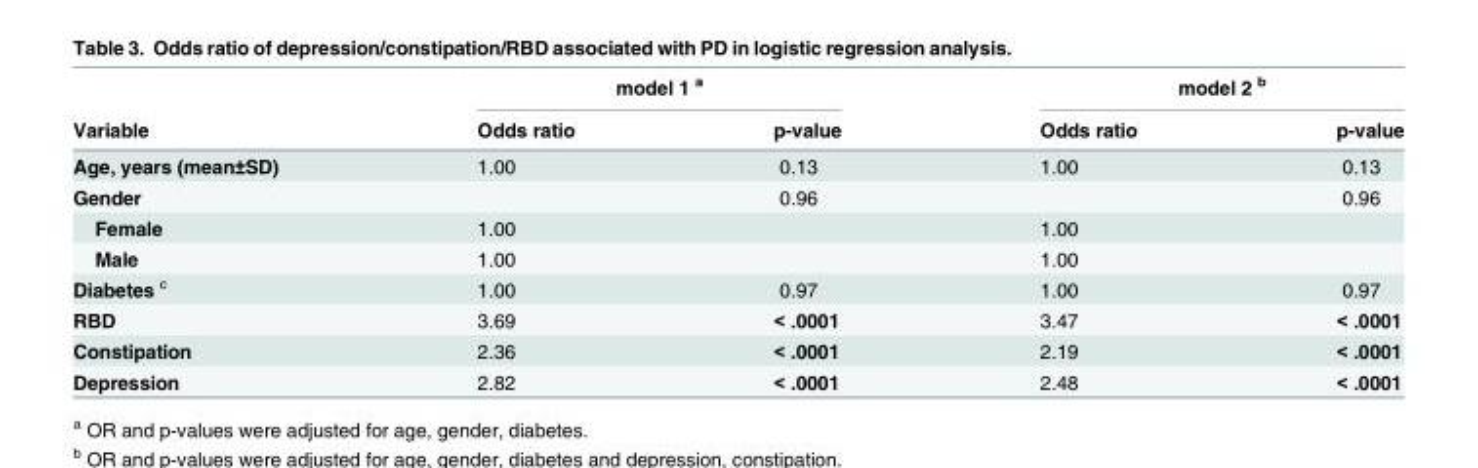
<table><thead><tr><td rowspan="2">Variable</td><td colspan="2">model 1 <sup>a</sup></td><td colspan="2">model 2 <sup>b</sup></td></tr><tr><td>Odds ratio</td><td>p-value</td><td>Odds ratio</td><td>p-value</td></tr></thead><tbody><tr><td>Age, years (mean±SD)</td><td>1.00</td><td>0.13</td><td>1.00</td><td>0.13</td></tr><tr><td>Gender</td><td></td><td>0.96</td><td></td><td>0.96</td></tr><tr><td>Female</td><td>1.00</td><td></td><td>1.00</td><td></td></tr><tr><td>Male</td><td>1.00</td><td></td><td>1.00</td><td></td></tr><tr><td>Diabetes <sup>c</sup></td><td>1.00</td><td>0.97</td><td>1.00</td><td>0.97</td></tr><tr><td>RBD</td><td>3.69</td><td>&lt; .0001</td><td>3.47</td><td>&lt; .0001</td></tr><tr><td>Constipation</td><td>2.36</td><td>&lt; .0001</td><td>2.19</td><td>&lt; .0001</td></tr><tr><td>Depression</td><td>2.82</td><td>&lt; .0001</td><td>2.48</td><td>&lt; .0001</td></tr></tbody></table>